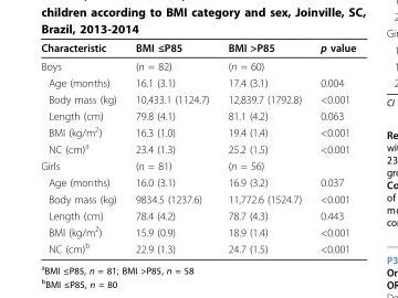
<table><thead><tr><td>Characteristic</td><td>BMI ≤P85</td><td>BMI &gt;P85</td><td>p value</td></tr></thead><tbody><tr><td>Boys</td><td>(n = 82)</td><td>(n = 60)</td><td></td></tr><tr><td>Age (months)</td><td>16.1 (3.1)</td><td>17.4 (3.1)</td><td>0.004</td></tr><tr><td>Body mass (kg)</td><td>10,433.1 (1124.7)</td><td>12,839.7 (1792.8)</td><td>&lt;0.001</td></tr><tr><td>Length (cm)</td><td>79.8 (4.1)</td><td>81.1 (4.2)</td><td>0.063</td></tr><tr><td>BMI (kg/m<sup>2</sup>)</td><td>16.3 (1.0)</td><td>19.4 (1.4)</td><td>&lt;0.001</td></tr><tr><td>NC (cm)<sup>a</sup></td><td>23.4 (1.3)</td><td>25.2 (1.5)</td><td>&lt;0.001</td></tr><tr><td>Girls</td><td>(n = 81)</td><td>(n = 56)</td><td></td></tr><tr><td>Age (months)</td><td>16.0 (3.1)</td><td>16.9 (3.2)</td><td>0.037</td></tr><tr><td>Body mass (kg)</td><td>9834.5 (1237.6)</td><td>11,772.6 (1524.7)</td><td>&lt;0.001</td></tr><tr><td>Length (cm)</td><td>78.4 (4.2)</td><td>78.7 (4.3)</td><td>0.443</td></tr><tr><td>BMI (kg/m<sup>2</sup>)</td><td>15.9 (0.9)</td><td>18.9 (1.4)</td><td>&lt;0.001</td></tr><tr><td>NC (cm)<sup>b</sup></td><td>22.9 (1.3)</td><td>24.7 (1.5)</td><td>&lt;0.001</td></tr></tbody></table>